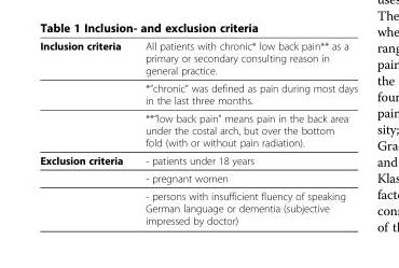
<table><tbody><tr><td rowspan="3">Inclusion criteria</td><td>All patients with chronic* low back pain** as a primary or secondary consulting reason in general practice.</td></tr><tr><td>*”chronic” was defined as pain during most days in the last three months.</td></tr><tr><td>**”low back pain” means pain in the back area under the costal arch, but over the bottom fold (with or without pain radiation).</td></tr><tr><td rowspan="3">Exclusion criteria</td><td>- patients under 18 years</td></tr><tr><td>- pregnant women</td></tr><tr><td>- persons with insufficient fluency of speaking German language or dementia (subjective impressed by doctor)</td></tr></tbody></table>